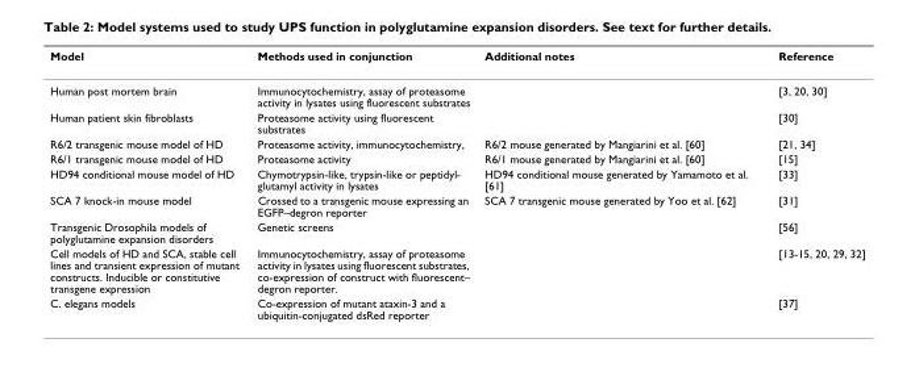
<table><thead><tr><td>Model</td><td>Methods used in conjunction</td><td>Additional notes</td><td>Reference</td></tr></thead><tbody><tr><td>Human post mortem brain</td><td>Immunocytochemistry, assay of proteasome activity in lysates using fluorescent substrates</td><td></td><td>[3, 20, 30]</td></tr><tr><td>Human patient skin fibroblasts</td><td>Proteasome activity using fluorescent substrates</td><td></td><td>[30]</td></tr><tr><td>R6/2 transgenic mouse model of HD</td><td>Proteasome activity, immunocytochemistry,</td><td>R6/2 mouse generated by Mangiarini et al. [60]</td><td>[21, 34]</td></tr><tr><td>R6/1 transgenic mouse model of HD</td><td>Proteasome activity</td><td>R6/1 mouse generated by Mangiarini et al. [60]</td><td>[15]</td></tr><tr><td>HD94 conditional mouse model of HD</td><td>Chymotrypsin-like, trypsin-like or peptidyl- glutamyl activity in lysates</td><td>HD94 conditional mouse generated by Yamamoto et al. [61]</td><td>[33]</td></tr><tr><td>SCA 7 knock-in mouse model</td><td>Crossed to a transgenic mouse expressing an EGFP–degron reporter</td><td>SCA 7 transgenic mouse generated by Yoo et al. [62]</td><td>[31]</td></tr><tr><td>Transgenic Drosophila models of polyglutamine expansion disorders</td><td>Genetic screens</td><td></td><td>[56]</td></tr><tr><td>Cell models of HD and SCA, stable cell lines and transient expression of mutant constructs. Inducible or constitutive transgene expression</td><td>Immunocytochemistry, assay of proteasome activity in lysates using fluorescent substrates, co-expression of construct with fluorescent– degron reporter.</td><td></td><td>[13-15, 20, 29, 32]</td></tr><tr><td>C. elegans models</td><td>Co-expression of mutant ataxin-3 and a ubiquitin-conjugated dsRed reporter</td><td></td><td>[37]</td></tr></tbody></table>